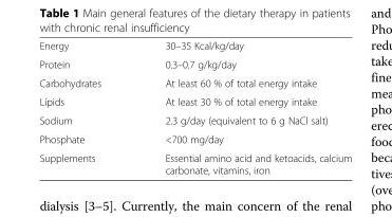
<table><tbody><tr><td>Energy</td><td>30–35 Kcal/kg/day</td></tr><tr><td>Protein</td><td>0.3–0.7 g/kg/day</td></tr><tr><td>Carbohydrates</td><td>At least 60 % of total energy intake</td></tr><tr><td>Lipids</td><td>At least 30 % of total energy intake</td></tr><tr><td>Sodium</td><td>2.3 g/day (equivalent to 6 g NaCl salt)</td></tr><tr><td>Phosphate</td><td>&lt;700 mg/day</td></tr><tr><td>Supplements</td><td>Essential amino acid and ketoacids, calcium carbonate, vitamins, iron</td></tr></tbody></table>